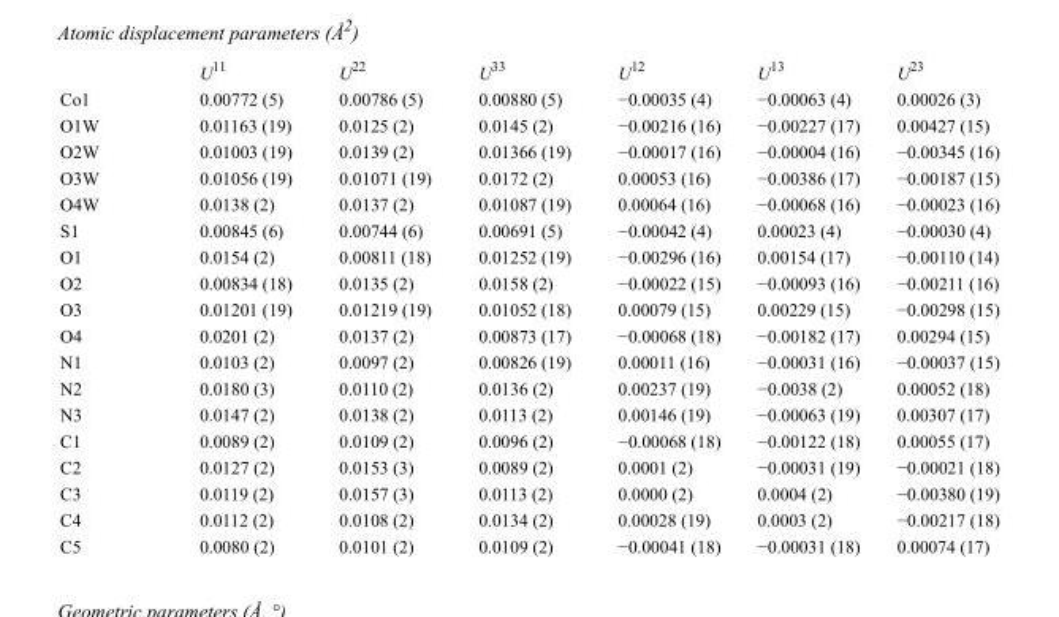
<table><thead><tr><td></td><td>U<sup>11</sup></td><td>U<sup>22</sup></td><td>U<sup>33</sup></td><td>U<sup>12</sup></td><td>U<sup>13</sup></td><td>U<sup>23</sup></td></tr></thead><tbody><tr><td>Co1</td><td>0.00772 (5)</td><td>0.00786 (5)</td><td>0.00880 (5)</td><td>−0.00035 (4)</td><td>−0.00063 (4)</td><td>0.00026 (3)</td></tr><tr><td>O1W</td><td>0.01163 (19)</td><td>0.0125 (2)</td><td>0.0145 (2)</td><td>−0.00216 (16)</td><td>−0.00227 (17)</td><td>0.00427 (15)</td></tr><tr><td>O2W</td><td>0.01003 (19)</td><td>0.0139 (2)</td><td>0.01366 (19)</td><td>−0.00017 (16)</td><td>−0.00004 (16)</td><td>−0.00345 (16)</td></tr><tr><td>O3W</td><td>0.01056 (19)</td><td>0.01071 (19)</td><td>0.0172 (2)</td><td>0.00053 (16)</td><td>−0.00386 (17)</td><td>−0.00187 (15)</td></tr><tr><td>O4W</td><td>0.0138 (2)</td><td>0.0137 (2)</td><td>0.01087 (19)</td><td>0.00064 (16)</td><td>−0.00068 (16)</td><td>−0.00023 (16)</td></tr><tr><td>S1</td><td>0.00845 (6)</td><td>0.00744 (6)</td><td>0.00691 (5)</td><td>−0.00042 (4)</td><td>0.00023 (4)</td><td>−0.00030 (4)</td></tr><tr><td>O1</td><td>0.0154 (2)</td><td>0.00811 (18)</td><td>0.01252 (19)</td><td>−0.00296 (16)</td><td>0.00154 (17)</td><td>−0.00110 (14)</td></tr><tr><td>O2</td><td>0.00834 (18)</td><td>0.0135 (2)</td><td>0.0158 (2)</td><td>−0.00022 (15)</td><td>−0.00093 (16)</td><td>−0.00211 (16)</td></tr><tr><td>O3</td><td>0.01201 (19)</td><td>0.01219 (19)</td><td>0.01052 (18)</td><td>0.00079 (15)</td><td>0.00229 (15)</td><td>−0.00298 (15)</td></tr><tr><td>O4</td><td>0.0201 (2)</td><td>0.0137 (2)</td><td>0.00873 (17)</td><td>−0.00068 (18)</td><td>−0.00182 (17)</td><td>0.00294 (15)</td></tr><tr><td>N1</td><td>0.0103 (2)</td><td>0.0097 (2)</td><td>0.00826 (19)</td><td>0.00011 (16)</td><td>−0.00031 (16)</td><td>−0.00037 (15)</td></tr><tr><td>N2</td><td>0.0180 (3)</td><td>0.0110 (2)</td><td>0.0136 (2)</td><td>0.00237 (19)</td><td>−0.0038 (2)</td><td>0.00052 (18)</td></tr><tr><td>N3</td><td>0.0147 (2)</td><td>0.0138 (2)</td><td>0.0113 (2)</td><td>0.00146 (19)</td><td>−0.00063 (19)</td><td>0.00307 (17)</td></tr><tr><td>C1</td><td>0.0089 (2)</td><td>0.0109 (2)</td><td>0.0096 (2)</td><td>−0.00068 (18)</td><td>−0.00122 (18)</td><td>0.00055 (17)</td></tr><tr><td>C2</td><td>0.0127 (2)</td><td>0.0153 (3)</td><td>0.0089 (2)</td><td>0.0001 (2)</td><td>−0.00031 (19)</td><td>−0.00021 (18)</td></tr><tr><td>C3</td><td>0.0119 (2)</td><td>0.0157 (3)</td><td>0.0113 (2)</td><td>0.0000 (2)</td><td>0.0004 (2)</td><td>−0.00380 (19)</td></tr><tr><td>C4</td><td>0.0112 (2)</td><td>0.0108 (2)</td><td>0.0134 (2)</td><td>0.00028 (19)</td><td>0.0003 (2)</td><td>−0.00217 (18)</td></tr><tr><td>C5</td><td>0.0080 (2)</td><td>0.0101 (2)</td><td>0.0109 (2)</td><td>−0.00041 (18)</td><td>−0.00031 (18)</td><td>0.00074 (17)</td></tr></tbody></table>